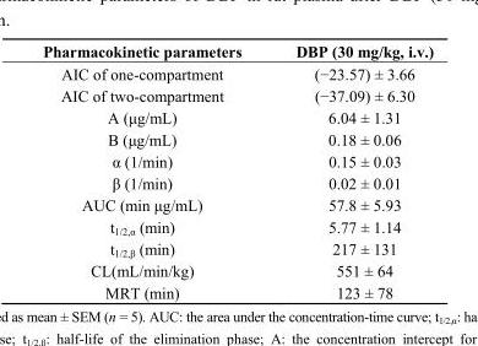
<table><thead><tr><td>Pharmacokinetic parameters</td><td>DBP (30 mg/kg, i.v.)</td></tr></thead><tbody><tr><td>AIC of one-compartment</td><td>(−23.57) ± 3.66</td></tr><tr><td>AIC of two-compartment</td><td>(−37.09) ± 6.30</td></tr><tr><td>A (μg/mL)</td><td>6.04 ± 1.31</td></tr><tr><td>B (μg/mL)</td><td>0.18 ± 0.06</td></tr><tr><td>α (1/min)</td><td>0.15 ± 0.03</td></tr><tr><td>β (1/min)</td><td>0.02 ± 0.01</td></tr><tr><td>AUC (min μg/mL)</td><td>57.8 ± 5.93</td></tr><tr><td>t<sub>1/2,α</sub> (min)</td><td>5.77 ± 1.14</td></tr><tr><td>t<sub>1/2,β</sub> (min)</td><td>217 ± 131</td></tr><tr><td>CL(mL/min/kg)</td><td>551 ± 64</td></tr><tr><td>MRT (min)</td><td>123 ± 78</td></tr></tbody></table>